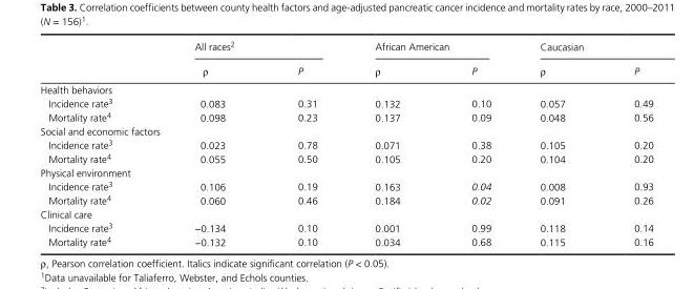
<table><thead><tr><td rowspan="2"></td><td colspan="2">All races2</td><td colspan="2">African American</td><td colspan="2">Caucasian</td></tr><tr><td>ρ</td><td>P</td><td>ρ</td><td>P</td><td>ρ</td><td>P</td></tr></thead><tbody><tr><td colspan="7">Health behaviors</td></tr><tr><td>Incidence rate3</td><td>0.083</td><td>0.31</td><td>0.132</td><td>0.10</td><td>0.057</td><td>0.49</td></tr><tr><td>Mortality rate4</td><td>0.098</td><td>0.23</td><td>0.137</td><td>0.09</td><td>0.048</td><td>0.56</td></tr><tr><td colspan="7">Social and economic factors</td></tr><tr><td>Incidence rate3</td><td>0.023</td><td>0.78</td><td>0.071</td><td>0.38</td><td>0.105</td><td>0.20</td></tr><tr><td>Mortality rate4</td><td>0.055</td><td>0.50</td><td>0.105</td><td>0.20</td><td>0.104</td><td>0.20</td></tr><tr><td colspan="7">Physical environment</td></tr><tr><td>Incidence rate3</td><td>0.106</td><td>0.19</td><td>0.163</td><td>0.04</td><td>0.008</td><td>0.93</td></tr><tr><td>Mortality rate4</td><td>0.060</td><td>0.46</td><td>0.184</td><td>0.02</td><td>0.091</td><td>0.26</td></tr><tr><td colspan="7">Clinical care</td></tr><tr><td>Incidence rate3</td><td>−0.134</td><td>0.10</td><td>0.001</td><td>0.99</td><td>0.118</td><td>0.14</td></tr><tr><td>Mortality rate4</td><td>−0.132</td><td>0.10</td><td>0.034</td><td>0.68</td><td>0.115</td><td>0.16</td></tr></tbody></table>